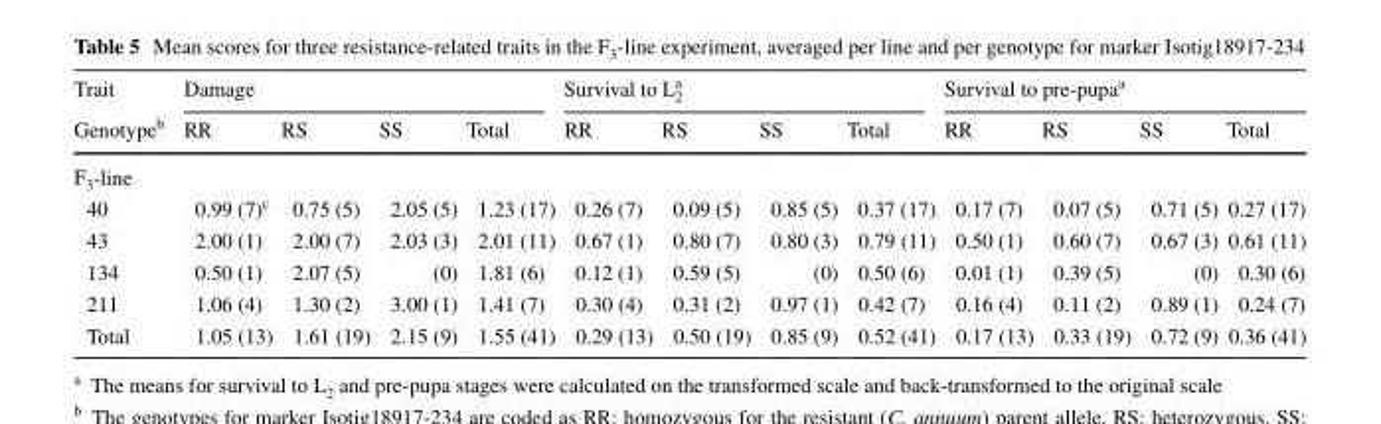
<table><thead><tr><td rowspan="2">Trait Genotype<sup>b</sup></td><td colspan="4">Damage</td><td colspan="4">Survival to L<sub>2</sub> <sup>a</sup></td><td colspan="4">Survival to pre-pupa<sup>a</sup></td></tr><tr><td>RR</td><td>RS</td><td>SS</td><td>Total</td><td>RR</td><td>RS</td><td>SS</td><td>Total</td><td>RR</td><td>RS</td><td>SS</td><td>Total</td></tr></thead><tbody><tr><td colspan="13">F<sub>3</sub>-line</td></tr><tr><td>40</td><td>0.99 (7)<sup>c</sup></td><td>0.75 (5)</td><td>2.05 (5)</td><td>1.23 (17)</td><td>0.26 (7)</td><td>0.09 (5)</td><td>0.85 (5)</td><td>0.37 (17)</td><td>0.17 (7)</td><td>0.07 (5)</td><td>0.71 (5)</td><td>0.27 (17)</td></tr><tr><td>43</td><td>2.00 (1)</td><td>2.00 (7)</td><td>2.03 (3)</td><td>2.01 (11)</td><td>0.67 (1)</td><td>0.80 (7)</td><td>0.80 (3)</td><td>0.79 (11)</td><td>0.50 (1)</td><td>0.60 (7)</td><td>0.67 (3)</td><td>0.61 (11)</td></tr><tr><td>134</td><td>0.50 (1)</td><td>2.07 (5)</td><td>(0)</td><td>1.81 (6)</td><td>0.12 (1)</td><td>0.59 (5)</td><td>(0)</td><td>0.50 (6)</td><td>0.01 (1)</td><td>0.39 (5)</td><td>(0)</td><td>0.30 (6)</td></tr><tr><td>211</td><td>1.06 (4)</td><td>1.30 (2)</td><td>3.00 (1)</td><td>1.41 (7)</td><td>0.30 (4)</td><td>0.31 (2)</td><td>0.97 (1)</td><td>0.42 (7)</td><td>0.16 (4)</td><td>0.11 (2)</td><td>0.89 (1)</td><td>0.24 (7)</td></tr><tr><td>Total</td><td>1.05 (13)</td><td>1.61 (19)</td><td>2.15 (9)</td><td>1.55 (41)</td><td>0.29 (13)</td><td>0.50 (19)</td><td>0.85 (9)</td><td>0.52 (41)</td><td>0.17 (13)</td><td>0.33 (19)</td><td>0.72 (9)</td><td>0.36 (41)</td></tr></tbody></table>